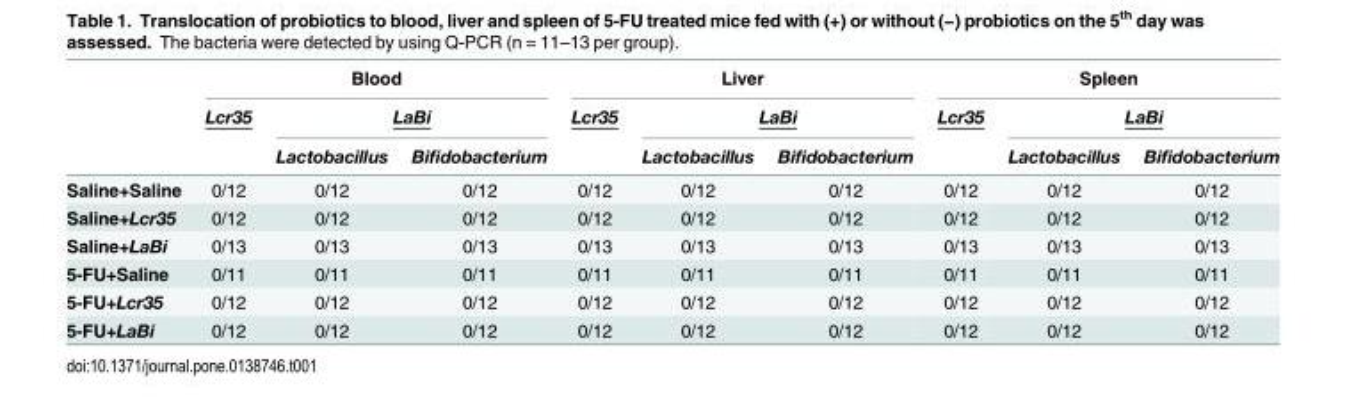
<table><thead><tr><td rowspan="3"></td><td colspan="3">Blood</td><td colspan="3">Liver</td><td colspan="3">Spleen</td></tr><tr><td rowspan="2">Lcr35</td><td colspan="2">LaBi</td><td rowspan="2">Lcr35</td><td colspan="2">LaBi</td><td rowspan="2">Lcr35</td><td colspan="2">LaBi</td></tr><tr><td>Lactobacillus</td><td>Bifidobacterium</td><td>Lactobacillus</td><td>Bifidobacterium</td><td>Lactobacillus</td><td>Bifidobacterium</td></tr></thead><tbody><tr><td>Saline+Saline</td><td>0/12</td><td>0/12</td><td>0/12</td><td>0/12</td><td>0/12</td><td>0/12</td><td>0/12</td><td>0/12</td><td>0/12</td></tr><tr><td>Saline+Lcr35</td><td>0/12</td><td>0/12</td><td>0/12</td><td>0/12</td><td>0/12</td><td>0/12</td><td>0/12</td><td>0/12</td><td>0/12</td></tr><tr><td>Saline+LaBi</td><td>0/13</td><td>0/13</td><td>0/13</td><td>0/13</td><td>0/13</td><td>0/13</td><td>0/13</td><td>0/13</td><td>0/13</td></tr><tr><td>5-FU+Saline</td><td>0/11</td><td>0/11</td><td>0/11</td><td>0/11</td><td>0/11</td><td>0/11</td><td>0/11</td><td>0/11</td><td>0/11</td></tr><tr><td>5-FU+Lcr35</td><td>0/12</td><td>0/12</td><td>0/12</td><td>0/12</td><td>0/12</td><td>0/12</td><td>0/12</td><td>0/12</td><td>0/12</td></tr><tr><td>5-FU+LaBi</td><td>0/12</td><td>0/12</td><td>0/12</td><td>0/12</td><td>0/12</td><td>0/12</td><td>0/12</td><td>0/12</td><td>0/12</td></tr></tbody></table>